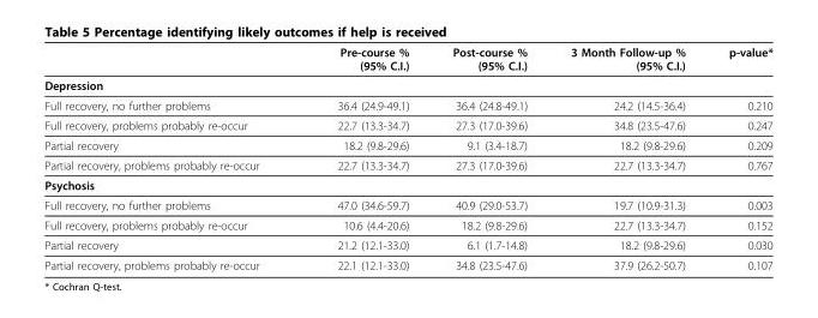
<table><thead><tr><td></td><td>Pre-course % (95% C.I.)</td><td>Post-course % (95% C.I.)</td><td>3 Month Follow-up % (95% C.I.)</td><td>p-value*</td></tr></thead><tbody><tr><td colspan="5">Depression</td></tr><tr><td>Full recovery, no further problems</td><td>36.4 (24.9-49.1)</td><td>36.4 (24.8-49.1)</td><td>24.2 (14.5-36.4)</td><td>0.210</td></tr><tr><td>Full recovery, problems probably re-occur</td><td>22.7 (13.3-34.7)</td><td>27.3 (17.0-39.6)</td><td>34.8 (23.5-47.6)</td><td>0.247</td></tr><tr><td>Partial recovery</td><td>18.2 (9.8-29.6)</td><td>9.1 (3.4-18.7)</td><td>18.2 (9.8-29.6)</td><td>0.209</td></tr><tr><td>Partial recovery, problems probably re-occur</td><td>22.7 (13.3-34.7)</td><td>27.3 (17.0-39.6)</td><td>22.7 (13.3-34.7)</td><td>0.767</td></tr><tr><td colspan="5">Psychosis</td></tr><tr><td>Full recovery, no further problems</td><td>47.0 (34.6-59.7)</td><td>40.9 (29.0-53.7)</td><td>19.7 (10.9-31.3)</td><td>0.003</td></tr><tr><td>Full recovery, problems probably re-occur</td><td>10.6 (4.4-20.6)</td><td>18.2 (9.8-29.6)</td><td>22.7 (13.3-34.7)</td><td>0.152</td></tr><tr><td>Partial recovery</td><td>21.2 (12.1-33.0)</td><td>6.1 (1.7-14.8)</td><td>18.2 (9.8-29.6)</td><td>0.030</td></tr><tr><td>Partial recovery, problems probably re-occur</td><td>22.1 (12.1-33.0)</td><td>34.8 (23.5-47.6)</td><td>37.9 (26.2-50.7)</td><td>0.107</td></tr></tbody></table>